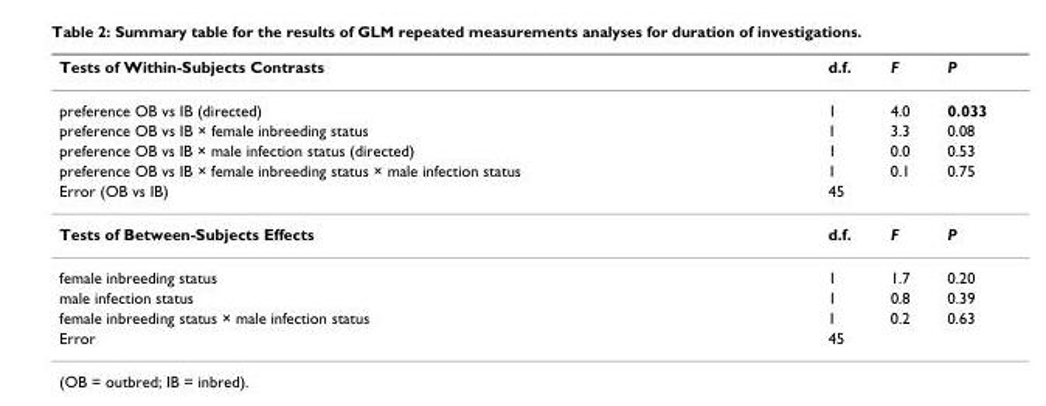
<table><thead><tr><td>Tests of Within-Subjects Contrasts</td><td>d.f.</td><td>F</td><td>P</td></tr></thead><tbody><tr><td>preference OB vs IB (directed)</td><td>1</td><td>4.0</td><td>0.033</td></tr><tr><td>preference OB vs IB × female inbreeding status</td><td>1</td><td>3.3</td><td>0.08</td></tr><tr><td>preference OB vs IB × male infection status (directed)</td><td>1</td><td>0.0</td><td>0.53</td></tr><tr><td>preference OB vs IB × female inbreeding status × male infection status</td><td>1</td><td>0.1</td><td>0.75</td></tr><tr><td>Error (OB vs IB)</td><td>45</td><td></td><td></td></tr><tr><td>Tests of Between-Subjects Effects</td><td>d.f.</td><td>F</td><td>P</td></tr><tr><td>female inbreeding status</td><td>1</td><td>1.7</td><td>0.20</td></tr><tr><td>male infection status</td><td>1</td><td>0.8</td><td>0.39</td></tr><tr><td>female inbreeding status × male infection status</td><td>1</td><td>0.2</td><td>0.63</td></tr><tr><td>Error</td><td>45</td><td></td><td></td></tr></tbody></table>